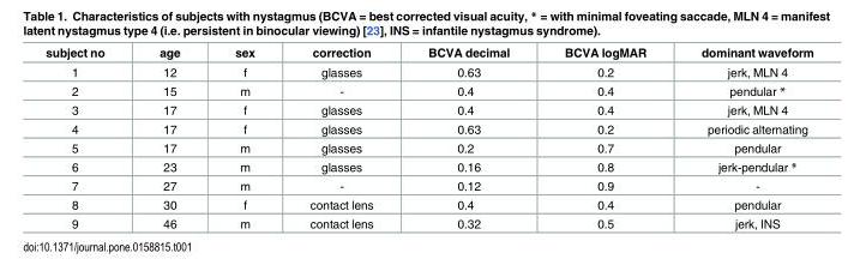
<table><thead><tr><td>subject no</td><td>age</td><td>sex</td><td>correction</td><td>BCVA decimal</td><td>BCVA logMAR</td><td>dominant waveform</td></tr></thead><tbody><tr><td>1</td><td>12</td><td>f</td><td>glasses</td><td>0.63</td><td>0.2</td><td>jerk, MLN 4</td></tr><tr><td>2</td><td>15</td><td>m</td><td>-</td><td>0.4</td><td>0.4</td><td>pendular *</td></tr><tr><td>3</td><td>17</td><td>f</td><td>glasses</td><td>0.4</td><td>0.4</td><td>jerk, MLN 4</td></tr><tr><td>4</td><td>17</td><td>f</td><td>glasses</td><td>0.63</td><td>0.2</td><td>periodic alternating</td></tr><tr><td>5</td><td>17</td><td>m</td><td>glasses</td><td>0.2</td><td>0.7</td><td>pendular</td></tr><tr><td>6</td><td>23</td><td>m</td><td>glasses</td><td>0.16</td><td>0.8</td><td>jerk-pendular *</td></tr><tr><td>7</td><td>27</td><td>m</td><td>-</td><td>0.12</td><td>0.9</td><td>-</td></tr><tr><td>8</td><td>30</td><td>f</td><td>contact lens</td><td>0.4</td><td>0.4</td><td>pendular</td></tr><tr><td>9</td><td>46</td><td>m</td><td>contact lens</td><td>0.32</td><td>0.5</td><td>jerk, INS</td></tr></tbody></table>